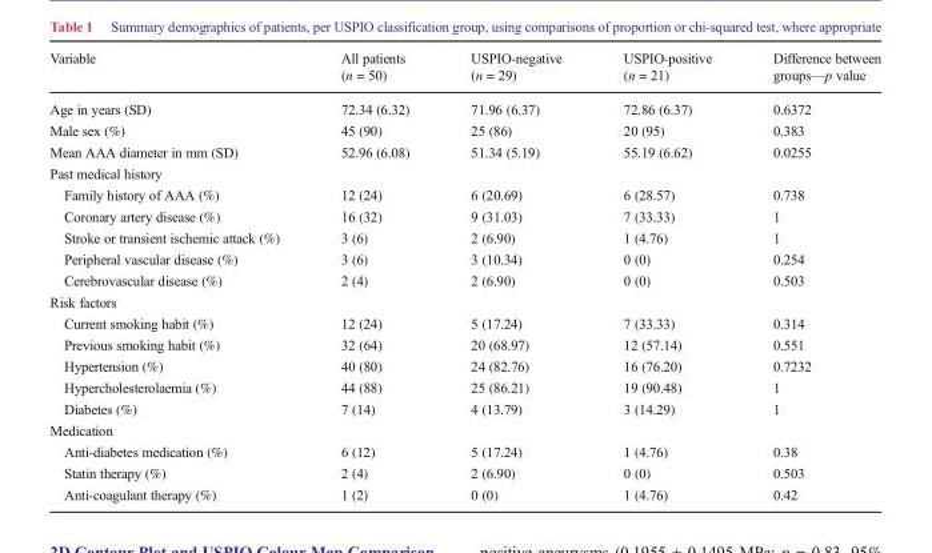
<table><thead><tr><td>Variable</td><td>All patients (n = 50)</td><td>USPIO-negative (n = 29)</td><td>USPIO-positive (n = 21)</td><td>Difference between groups—p value</td></tr></thead><tbody><tr><td>Age in years (SD)</td><td>72.34 (6.32)</td><td>71.96 (6.37)</td><td>72.86 (6.37)</td><td>0.6372</td></tr><tr><td>Male sex (%)</td><td>45 (90)</td><td>25 (86)</td><td>20 (95)</td><td>0.383</td></tr><tr><td>Mean AAA diameter in mm (SD)</td><td>52.96 (6.08)</td><td>51.34 (5.19)</td><td>55.19 (6.62)</td><td>0.0255</td></tr><tr><td colspan="5">Past medical history</td></tr><tr><td>Family history of AAA (%)</td><td>12 (24)</td><td>6 (20.69)</td><td>6 (28.57)</td><td>0.738</td></tr><tr><td>Coronary artery disease (%)</td><td>16 (32)</td><td>9 (31.03)</td><td>7 (33.33)</td><td>1</td></tr><tr><td>Stroke or transient ischemic attack (%)</td><td>3 (6)</td><td>2 (6.90)</td><td>1 (4.76)</td><td>1</td></tr><tr><td>Peripheral vascular disease (%)</td><td>3 (6)</td><td>3 (10.34)</td><td>0 (0)</td><td>0.254</td></tr><tr><td>Cerebrovascular disease (%)</td><td>2 (4)</td><td>2 (6.90)</td><td>0 (0)</td><td>0.503</td></tr><tr><td colspan="5">Risk factors</td></tr><tr><td>Current smoking habit (%)</td><td>12 (24)</td><td>5 (17.24)</td><td>7 (33.33)</td><td>0.314</td></tr><tr><td>Previous smoking habit (%)</td><td>32 (64)</td><td>20 (68.97)</td><td>12 (57.14)</td><td>0.551</td></tr><tr><td>Hypertension (%)</td><td>40 (80)</td><td>24 (82.76)</td><td>16 (76.20)</td><td>0.7232</td></tr><tr><td>Hypercholesterolaemia (%)</td><td>44 (88)</td><td>25 (86.21)</td><td>19 (90.48)</td><td>1</td></tr><tr><td>Diabetes (%)</td><td>7 (14)</td><td>4 (13.79)</td><td>3 (14.29)</td><td>1</td></tr><tr><td colspan="5">Medication</td></tr><tr><td>Anti-diabetes medication (%)</td><td>6 (12)</td><td>5 (17.24)</td><td>1 (4.76)</td><td>0.38</td></tr><tr><td>Statin therapy (%)</td><td>2 (4)</td><td>2 (6.90)</td><td>0 (0)</td><td>0.503</td></tr><tr><td>Anti-coagulant therapy (%)</td><td>1 (2)</td><td>0 (0)</td><td>1 (4.76)</td><td>0.42</td></tr></tbody></table>